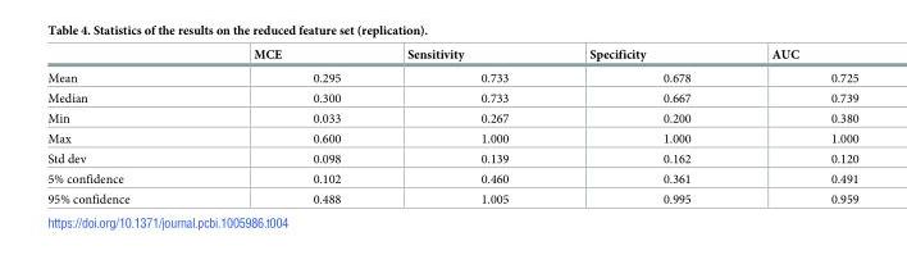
<table><thead><tr><td></td><td>MCE</td><td>Sensitivity</td><td>Specificity</td><td>AUC</td></tr></thead><tbody><tr><td>Mean</td><td>0.295</td><td>0.733</td><td>0.678</td><td>0.725</td></tr><tr><td>Median</td><td>0.300</td><td>0.733</td><td>0.667</td><td>0.739</td></tr><tr><td>Min</td><td>0.033</td><td>0.267</td><td>0.200</td><td>0.380</td></tr><tr><td>Max</td><td>0.600</td><td>1.000</td><td>1.000</td><td>1.000</td></tr><tr><td>Std dev</td><td>0.098</td><td>0.139</td><td>0.162</td><td>0.120</td></tr><tr><td>5% confidence</td><td>0.102</td><td>0.460</td><td>0.361</td><td>0.491</td></tr><tr><td>95% confidence</td><td>0.488</td><td>1.005</td><td>0.995</td><td>0.959</td></tr></tbody></table>